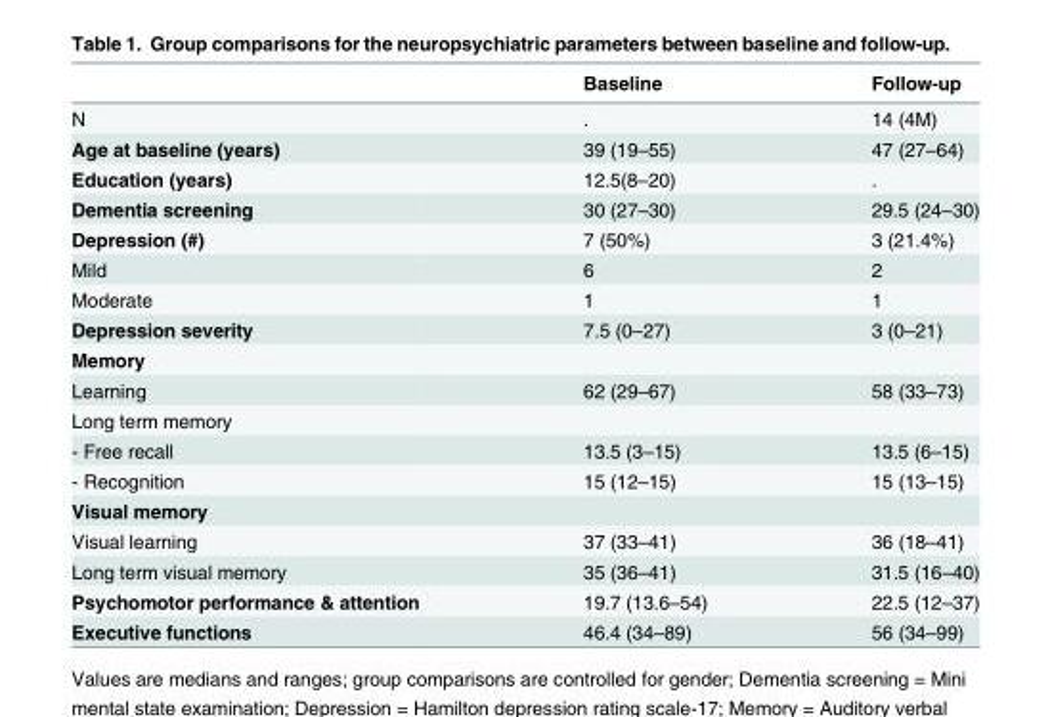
<table><thead><tr><td></td><td>Baseline</td><td>Follow-up</td></tr></thead><tbody><tr><td>N</td><td>.</td><td>14 (4M)</td></tr><tr><td>Age at baseline (years)</td><td>39 (19–55)</td><td>47 (27–64)</td></tr><tr><td>Education (years)</td><td>12.5(8–20)</td><td>.</td></tr><tr><td>Dementia screening</td><td>30 (27–30)</td><td>29.5 (24–30)</td></tr><tr><td>Depression (#)</td><td>7 (50%)</td><td>3 (21.4%)</td></tr><tr><td>Mild</td><td>6</td><td>2</td></tr><tr><td>Moderate</td><td>1</td><td>1</td></tr><tr><td>Depression severity</td><td>7.5 (0–27)</td><td>3 (0–21)</td></tr><tr><td colspan="3">Memory</td></tr><tr><td>Learning</td><td>62 (29–67)</td><td>58 (33–73)</td></tr><tr><td colspan="3">Long term memory</td></tr><tr><td>- Free recall</td><td>13.5 (3–15)</td><td>13.5 (6–15)</td></tr><tr><td>- Recognition</td><td>15 (12–15)</td><td>15 (13–15)</td></tr><tr><td colspan="3">Visual memory</td></tr><tr><td>Visual learning</td><td>37 (33–41)</td><td>36 (18–41)</td></tr><tr><td>Long term visual memory</td><td>35 (36–41)</td><td>31.5 (16–40)</td></tr><tr><td>Psychomotor performance &amp; attention</td><td>19.7 (13.6–54)</td><td>22.5 (12–37)</td></tr><tr><td>Executive functions</td><td>46.4 (34–89)</td><td>56 (34–99)</td></tr></tbody></table>